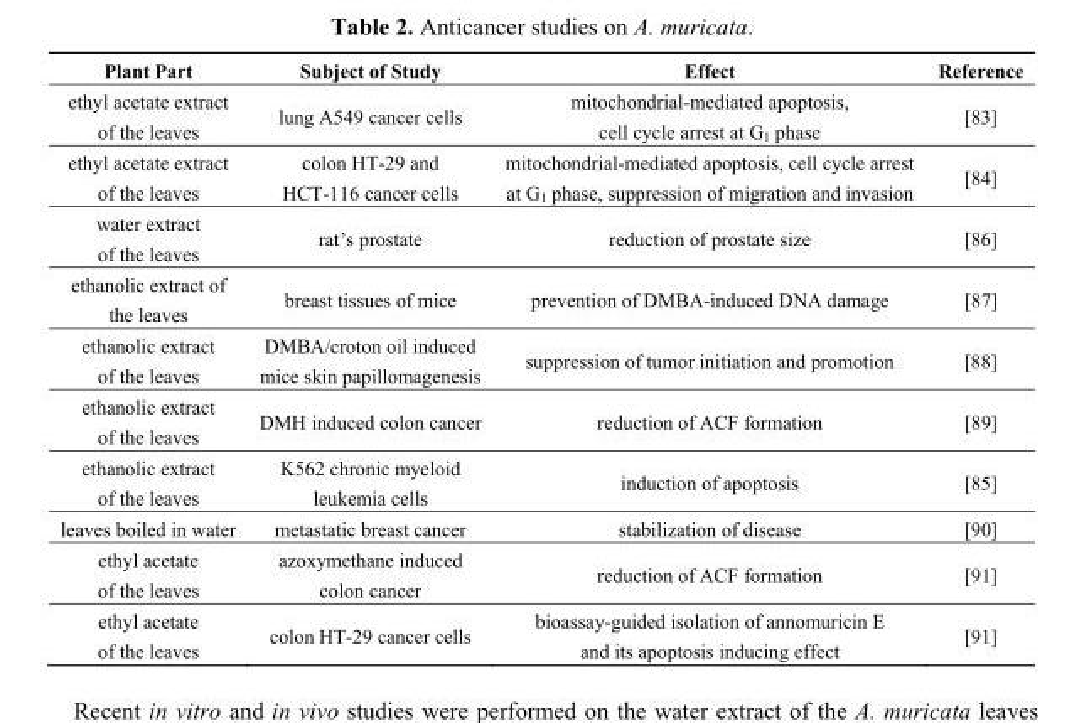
<table><thead><tr><td>Plant Part</td><td>Subject of Study</td><td>Effect</td><td>Reference</td></tr></thead><tbody><tr><td>ethyl acetate extract of the leaves</td><td>lung A549 cancer cells</td><td>mitochondrial-mediated apoptosis, cell cycle arrest at G<sub>1</sub> phase</td><td>[83]</td></tr><tr><td>ethyl acetate extract of the leaves</td><td>colon HT-29 and HCT-116 cancer cells</td><td>mitochondrial-mediated apoptosis, cell cycle arrest at G<sub>1</sub> phase, suppression of migration and invasion</td><td>[84]</td></tr><tr><td>water extract of the leaves</td><td>rat’s prostate</td><td>reduction of prostate size</td><td>[86]</td></tr><tr><td>ethanolic extract of the leaves</td><td>breast tissues of mice</td><td>prevention of DMBA-induced DNA damage</td><td>[87]</td></tr><tr><td>ethanolic extract of the leaves</td><td>DMBA/croton oil induced mice skin papillomagenesis</td><td>suppression of tumor initiation and promotion</td><td>[88]</td></tr><tr><td>ethanolic extract of the leaves</td><td>DMH induced colon cancer</td><td>reduction of ACF formation</td><td>[89]</td></tr><tr><td>ethanolic extract of the leaves</td><td>K562 chronic myeloid leukemia cells</td><td>induction of apoptosis</td><td>[85]</td></tr><tr><td>leaves boiled in water</td><td>metastatic breast cancer</td><td>stabilization of disease</td><td>[90]</td></tr><tr><td>ethyl acetate of the leaves</td><td>azoxymethane induced colon cancer</td><td>reduction of ACF formation</td><td>[91]</td></tr><tr><td>ethyl acetate of the leaves</td><td>colon HT-29 cancer cells</td><td>bioassay-guided isolation of annomuricin E and its apoptosis inducing effect</td><td>[91]</td></tr></tbody></table>